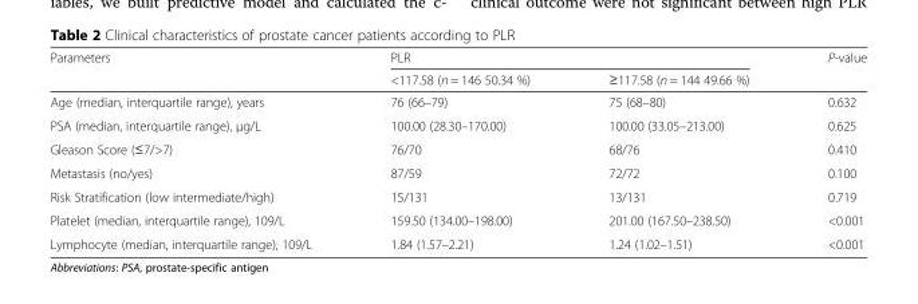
<table><thead><tr><td rowspan="2">Parameters</td><td colspan="2">PLR</td><td rowspan="2">P-value</td></tr><tr><td>&lt;117.58 (n = 146 50.34 %)</td><td>≥117.58 (n = 144 49.66 %)</td></tr></thead><tbody><tr><td>Age (median, interquartile range), years</td><td>76 (66–79)</td><td>75 (68–80)</td><td>0.632</td></tr><tr><td>PSA (median, interquartile range), μg/L</td><td>100.00 (28.30–170.00)</td><td>100.00 (33.05–213.00)</td><td>0.625</td></tr><tr><td>Gleason Score (≤7/&gt;7)</td><td>76/70</td><td>68/76</td><td>0.410</td></tr><tr><td>Metastasis (no/yes)</td><td>87/59</td><td>72/72</td><td>0.100</td></tr><tr><td>Risk Stratification (low intermediate/high)</td><td>15/131</td><td>13/131</td><td>0.719</td></tr><tr><td>Platelet (median, interquartile range), 109/L</td><td>159.50 (134.00–198.00)</td><td>201.00 (167.50–238.50)</td><td>&lt;0.001</td></tr><tr><td>Lymphocyte (median, interquartile range), 109/L</td><td>1.84 (1.57–2.21)</td><td>1.24 (1.02–1.51)</td><td>&lt;0.001</td></tr></tbody></table>